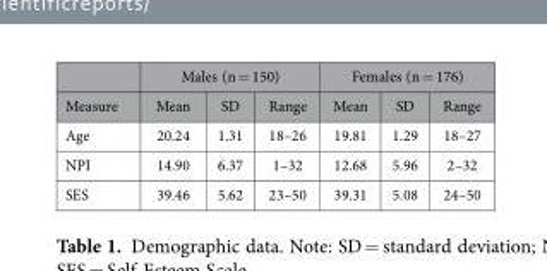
<table><thead><tr><td rowspan="2">Measure</td><td colspan="3">Males (n = 150)</td><td colspan="3">Females (n = 176)</td></tr><tr><td>Mean</td><td>SD</td><td>Range</td><td>Mean</td><td>SD</td><td>Range</td></tr></thead><tbody><tr><td>Age</td><td>20.24</td><td>1.31</td><td>18–26</td><td>19.81</td><td>1.29</td><td>18–27</td></tr><tr><td>NPI</td><td>14.90</td><td>6.37</td><td>1–32</td><td>12.68</td><td>5.96</td><td>2–32</td></tr><tr><td>SES</td><td>39.46</td><td>5.62</td><td>23–50</td><td>39.31</td><td>5.08</td><td>24–50</td></tr></tbody></table>